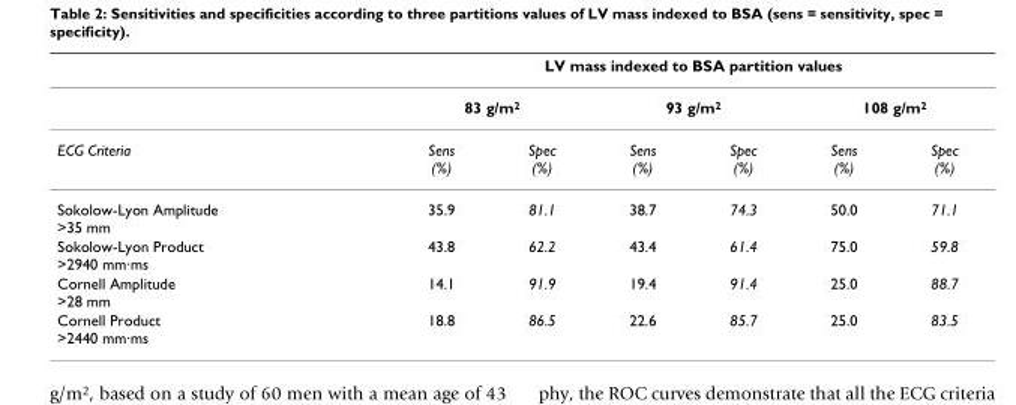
<table><thead><tr><td rowspan="3">ECG Criteria</td><td colspan="6">LV mass indexed to BSA partition values</td></tr><tr><td colspan="2">83 g/m<sup>2</sup></td><td colspan="2">93 g/m<sup>2</sup></td><td colspan="2">108 g/m<sup>2</sup></td></tr><tr><td>Sens (%)</td><td>Spec (%)</td><td>Sens (%)</td><td>Spec (%)</td><td>Sens (%)</td><td>Spec (%)</td></tr></thead><tbody><tr><td>Sokolow-Lyon Amplitude &gt;35 mm</td><td>35.9</td><td>81.1</td><td>38.7</td><td>74.3</td><td>50.0</td><td>71.1</td></tr><tr><td>Sokolow-Lyon Product &gt;2940 mm·ms</td><td>43.8</td><td>62.2</td><td>43.4</td><td>61.4</td><td>75.0</td><td>59.8</td></tr><tr><td>Cornell Amplitude &gt;28 mm</td><td>14.1</td><td>91.9</td><td>19.4</td><td>91.4</td><td>25.0</td><td>88.7</td></tr><tr><td>Cornell Product &gt;2440 mm·ms</td><td>18.8</td><td>86.5</td><td>22.6</td><td>85.7</td><td>25.0</td><td>83.5</td></tr></tbody></table>